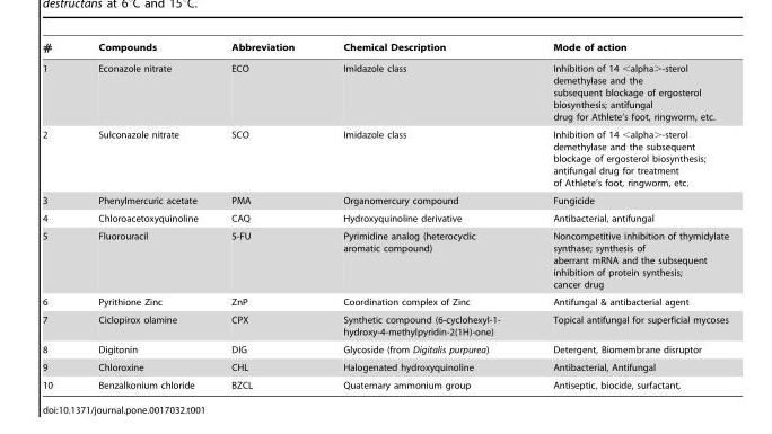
<table><thead><tr><td>#</td><td>Compounds</td><td>Abbreviation</td><td>Chemical Description</td><td>Mode of action</td></tr></thead><tbody><tr><td>1</td><td>Econazole nitrate</td><td>ECO</td><td>Imidazole class</td><td>Inhibition of 14 &lt;alpha&gt;-sterol demethylase and the subsequent blockage of ergosterol biosynthesis; antifungal drug for Athlete’s foot, ringworm, etc.</td></tr><tr><td>2</td><td>Sulconazole nitrate</td><td>SCO</td><td>Imidazole class</td><td>Inhibition of 14 &lt;alpha&gt;-sterol demethylase and the subsequent blockage of ergosterol biosynthesis; antifungal drug for treatment of Athlete’s foot, ringworm, etc.</td></tr><tr><td>3</td><td>Phenylmercuric acetate</td><td>PMA</td><td>Organomercury compound</td><td>Fungicide</td></tr><tr><td>4</td><td>Chloroacetoxyquinoline</td><td>CAQ</td><td>Hydroxyquinoline derivative</td><td>Antibacterial, antifungal</td></tr><tr><td>5</td><td>Fluorouracil</td><td>5-FU</td><td>Pyrimidine analog (heterocyclic aromatic compound)</td><td>Noncompetitive inhibition of thymidylate synthase; synthesis of aberrant mRNA and the subsequent inhibition of protein synthesis; cancer drug</td></tr><tr><td>6</td><td>Pyrithione Zinc</td><td>ZnP</td><td>Coordination complex of Zinc</td><td>Antifungal &amp; antibacterial agent</td></tr><tr><td>7</td><td>Ciclopirox olamine</td><td>CPX</td><td>Synthetic compound (6-cyclohexyl-1- hydroxy-4-methylpyridin-2(1H)-one)</td><td>Topical antifungal for superficial mycoses</td></tr><tr><td>8</td><td>Digitonin</td><td>DIG</td><td>Glycoside (from Digitalis purpurea)</td><td>Detergent, Biomembrane disruptor</td></tr><tr><td>9</td><td>Chloroxine</td><td>CHL</td><td>Halogenated hydroxyquinoline</td><td>Antibacterial, Antifungal</td></tr><tr><td>10</td><td>Benzalkonium chloride</td><td>BZCL</td><td>Quaternary ammonium group</td><td>Antiseptic, biocide, surfactant,</td></tr></tbody></table>